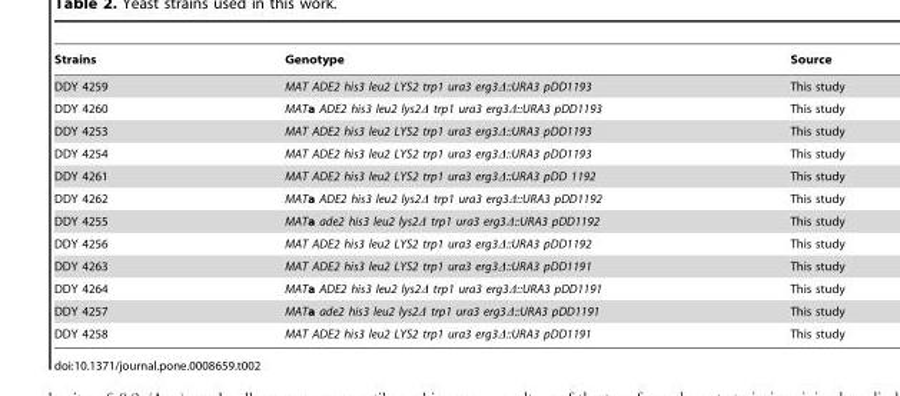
<table><thead><tr><td>Strains</td><td>Genotype</td><td>Source</td></tr></thead><tbody><tr><td>DDY 4259</td><td>MAT ADE2 his3 leu2 LYS2 trp1 ura3 erg3Δ::URA3 pDD1193</td><td>This study</td></tr><tr><td>DDY 4260</td><td>MATa ADE2 his3 leu2 lys2Δ trp1 ura3 erg3Δ::URA3 pDD1193</td><td>This study</td></tr><tr><td>DDY 4253</td><td>MAT ADE2 his3 leu2 LYS2 trp1 ura3 erg3Δ::URA3 pDD1193</td><td>This study</td></tr><tr><td>DDY 4254</td><td>MAT ADE2 his3 leu2 LYS2 trp1 ura3 erg3Δ::URA3 pDD1193</td><td>This study</td></tr><tr><td>DDY 4261</td><td>MAT ADE2 his3 leu2 LYS2 trp1 ura3 erg3Δ::URA3 pDD 1192</td><td>This study</td></tr><tr><td>DDY 4262</td><td>MATa ADE2 his3 leu2 lys2Δ trp1 ura3 erg3Δ::URA3 pDD1192</td><td>This study</td></tr><tr><td>DDY 4255</td><td>MATa ade2 his3 leu2 lys2Δ trp1 ura3 erg3Δ::URA3 pDD1192</td><td>This study</td></tr><tr><td>DDY 4256</td><td>MAT ADE2 his3 leu2 LYS2 trp1 ura3 erg3Δ::URA3 pDD1192</td><td>This study</td></tr><tr><td>DDY 4263</td><td>MAT ADE2 his3 leu2 LYS2 trp1 ura3 erg3Δ::URA3 pDD1191</td><td>This study</td></tr><tr><td>DDY 4264</td><td>MATa ADE2 his3 leu2 lys2Δ trp1 ura3 erg3Δ::URA3 pDD1191</td><td>This study</td></tr><tr><td>DDY 4257</td><td>MATa ade2 his3 leu2 lys2Δ trp1 ura3 erg3Δ::URA3 pDD1191</td><td>This study</td></tr><tr><td>DDY 4258</td><td>MAT ADE2 his3 leu2 LYS2 trp1 ura3 erg3Δ::URA3 pDD1191</td><td>This study</td></tr></tbody></table>